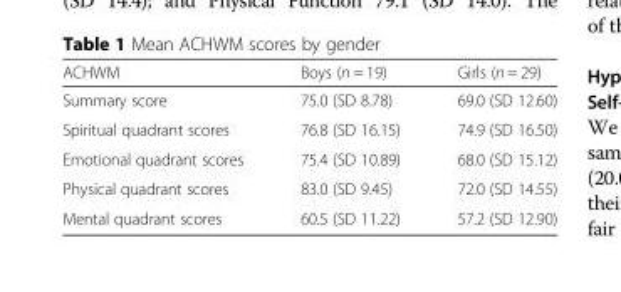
<table><thead><tr><td>ACHWM</td><td>Boys (n = 19)</td><td>Girls (n = 29)</td></tr></thead><tbody><tr><td>Summary score</td><td>75.0 (SD 8.78)</td><td>69.0 (SD 12.60)</td></tr><tr><td>Spiritual quadrant scores</td><td>76.8 (SD 16.15)</td><td>74.9 (SD 16.50)</td></tr><tr><td>Emotional quadrant scores</td><td>75.4 (SD 10.89)</td><td>68.0 (SD 15.12)</td></tr><tr><td>Physical quadrant scores</td><td>83.0 (SD 9.45)</td><td>72.0 (SD 14.55)</td></tr><tr><td>Mental quadrant scores</td><td>60.5 (SD 11.22)</td><td>57.2 (SD 12.90)</td></tr></tbody></table>